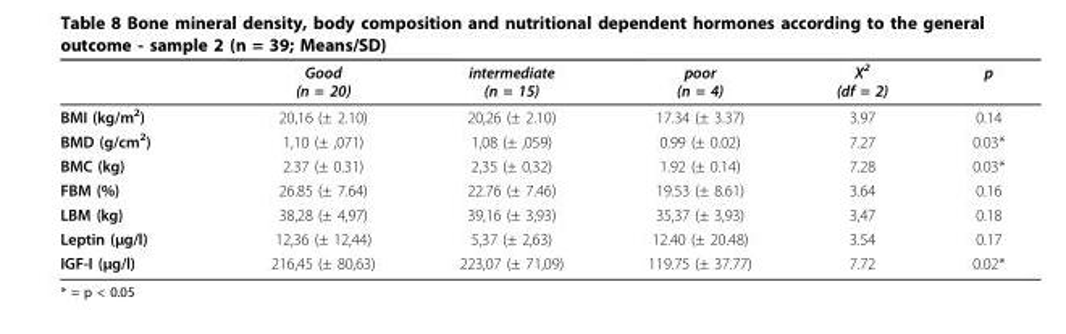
<table><thead><tr><td></td><td>Good (n = 20)</td><td>intermediate (n = 15)</td><td>poor (n = 4)</td><td>X<sup>2</sup> (df = 2)</td><td>p</td></tr></thead><tbody><tr><td>BMI (kg/m<sup>2</sup>)</td><td>20,16 (± 2.10)</td><td>20,26 (± 2.10)</td><td>17.34 (± 3.37)</td><td>3.97</td><td>0.14</td></tr><tr><td>BMD (g/cm<sup>2</sup>)</td><td>1,10 (± ,071)</td><td>1,08 (± ,059)</td><td>0.99 (± 0.02)</td><td>7.27</td><td>0.03*</td></tr><tr><td>BMC (kg)</td><td>2.37 (± 0.31)</td><td>2,35 (± 0,32)</td><td>1.92 (± 0.14)</td><td>7.28</td><td>0.03*</td></tr><tr><td>FBM (%)</td><td>26.85 (± 7.64)</td><td>22.76 (± 7.46)</td><td>19.53 (± 8.61)</td><td>3.64</td><td>0.16</td></tr><tr><td>LBM (kg)</td><td>38,28 (± 4,97)</td><td>39,16 (± 3,93)</td><td>35,37 (± 3,93)</td><td>3,47</td><td>0.18</td></tr><tr><td>Leptin (μg/l)</td><td>12,36 (± 12,44)</td><td>5,37 (± 2,63)</td><td>12.40 (± 20.48)</td><td>3.54</td><td>0.17</td></tr><tr><td>IGF-I (μg/l)</td><td>216,45 (± 80,63)</td><td>223,07 (± 71,09)</td><td>119.75 (± 37.77)</td><td>7.72</td><td>0.02*</td></tr></tbody></table>